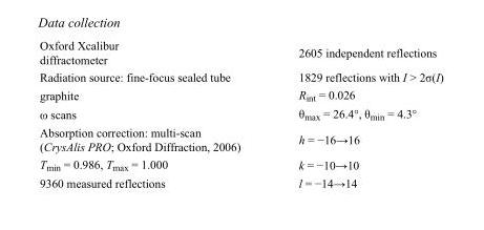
<table><tbody><tr><td>Oxford Xcalibur diffractometer</td><td>2605 independent reflections</td></tr><tr><td>Radiation source: fine-focus sealed tube</td><td>1829 reflections with I &gt; 2σ(I)</td></tr><tr><td>graphite</td><td>R<sub>int</sub> = 0.026</td></tr><tr><td>ω scans</td><td>θ<sub>max</sub> = 26.4°, θ<sub>min</sub> = 4.3°</td></tr><tr><td>Absorption correction: multi-scan (CrysAlis PRO; Oxford Diffraction, 2006)</td><td>h = −16→16</td></tr><tr><td>T<sub>min</sub> = 0.986, T<sub>max</sub> = 1.000</td><td>k = −10→10</td></tr><tr><td>9360 measured reflections</td><td>l = −14→14</td></tr></tbody></table>